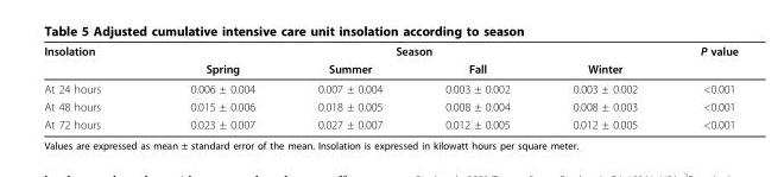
<table><thead><tr><td rowspan="2">Insolation</td><td colspan="4">Season</td><td rowspan="2">P value</td></tr><tr><td>Spring</td><td>Summer</td><td>Fall</td><td>Winter</td></tr></thead><tbody><tr><td>At 24 hours</td><td>0.006 ± 0.004</td><td>0.007 ± 0.004</td><td>0.003 ± 0.002</td><td>0.003 ± 0.002</td><td>&lt;0.001</td></tr><tr><td>At 48 hours</td><td>0.015 ± 0.006</td><td>0.018 ± 0.005</td><td>0.008 ± 0.004</td><td>0.008 ± 0.003</td><td>&lt;0.001</td></tr><tr><td>At 72 hours</td><td>0.023 ± 0.007</td><td>0.027 ± 0.007</td><td>0.012 ± 0.005</td><td>0.012 ± 0.005</td><td>&lt;0.001</td></tr></tbody></table>